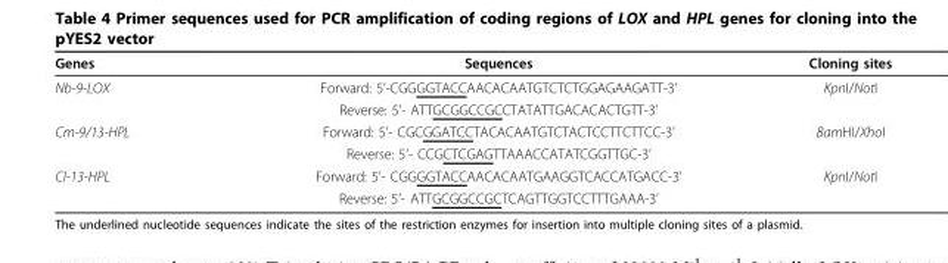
<table><thead><tr><td>Genes</td><td>Sequences</td><td>Cloning sites</td></tr></thead><tbody><tr><td rowspan="2">Nb-9-LOX</td><td>Forward: 5’-CGGGGTACCAACACAATGTCTCTGGAGAAGATT-3’</td><td>KpnI/NotI</td></tr><tr><td>Reverse: 5’- ATTGCGGCCGCCTATATTGACACACTGTT-3’</td><td></td></tr><tr><td rowspan="2">Cm-9/13-HPL</td><td>Forward: 5’- CGCGGATCCTACACAATGTCTACTCCTTCTTCC-3’</td><td>BamHI/XhoI</td></tr><tr><td>Reverse: 5’- CCGCTCGAGTTAAACCATATCGGTTGC-3’</td><td></td></tr><tr><td rowspan="2">Cl-13-HPL</td><td>Forward: 5’- CGGGGTACCAACACAATGAAGGTCACCATGACC-3’</td><td>KpnI/NotI</td></tr><tr><td>Reverse: 5’- ATTGCGGCCGCTCAGTTGGTCCTTTGAAA-3’</td><td></td></tr></tbody></table>